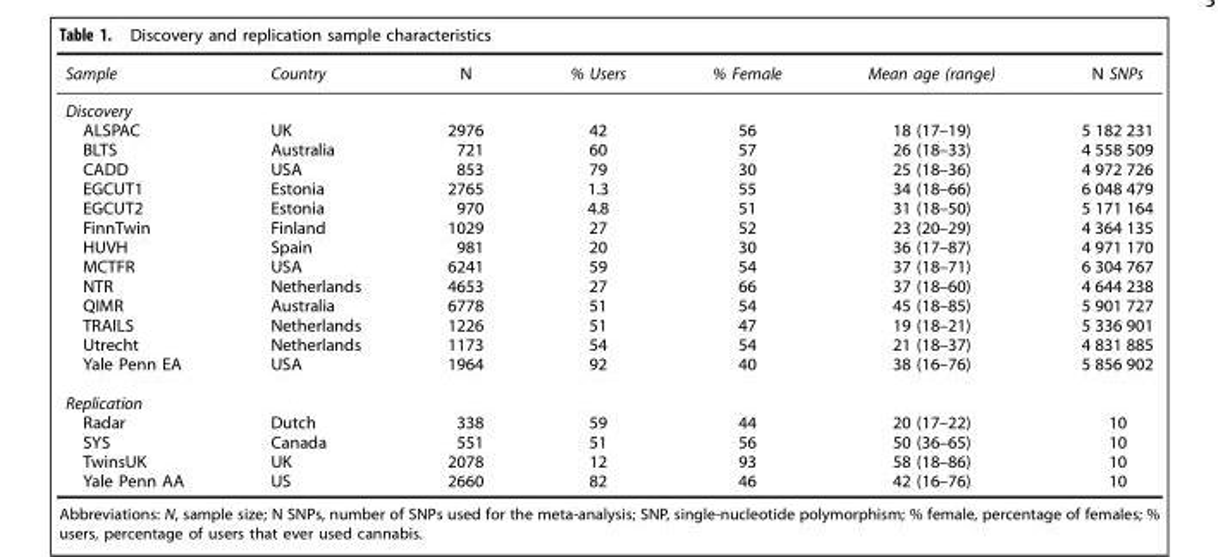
<table><thead><tr><td>Sample</td><td>Country</td><td>N</td><td>% Users</td><td>% Female</td><td>Mean age (range)</td><td>N SNPs</td></tr></thead><tbody><tr><td colspan="7">Discovery</td></tr><tr><td>ALSPAC</td><td>UK</td><td>2976</td><td>42</td><td>56</td><td>18 (17–19)</td><td>5 182 231</td></tr><tr><td>BLTS</td><td>Australia</td><td>721</td><td>60</td><td>57</td><td>26 (18–33)</td><td>4 558 509</td></tr><tr><td>CADD</td><td>USA</td><td>853</td><td>79</td><td>30</td><td>25 (18–36)</td><td>4 972 726</td></tr><tr><td>EGCUT1</td><td>Estonia</td><td>2765</td><td>1.3</td><td>55</td><td>34 (18–66)</td><td>6 048 479</td></tr><tr><td>EGCUT2</td><td>Estonia</td><td>970</td><td>4.8</td><td>51</td><td>31 (18–50)</td><td>5 171 164</td></tr><tr><td>FinnTwin</td><td>Finland</td><td>1029</td><td>27</td><td>52</td><td>23 (20–29)</td><td>4 364 135</td></tr><tr><td>HUVH</td><td>Spain</td><td>981</td><td>20</td><td>30</td><td>36 (17–87)</td><td>4 971 170</td></tr><tr><td>MCTFR</td><td>USA</td><td>6241</td><td>59</td><td>54</td><td>37 (18–71)</td><td>6 304 767</td></tr><tr><td>NTR</td><td>Netherlands</td><td>4653</td><td>27</td><td>66</td><td>37 (18–60)</td><td>4 644 238</td></tr><tr><td>QIMR</td><td>Australia</td><td>6778</td><td>51</td><td>54</td><td>45 (18–85)</td><td>5 901 727</td></tr><tr><td>TRAILS</td><td>Netherlands</td><td>1226</td><td>51</td><td>47</td><td>19 (18–21)</td><td>5 336 901</td></tr><tr><td>Utrecht</td><td>Netherlands</td><td>1173</td><td>54</td><td>54</td><td>21 (18–37)</td><td>4 831 885</td></tr><tr><td>Yale Penn EA</td><td>USA</td><td>1964</td><td>92</td><td>40</td><td>38 (16–76)</td><td>5 856 902</td></tr><tr><td colspan="7">Replication</td></tr><tr><td>Radar</td><td>Dutch</td><td>338</td><td>59</td><td>44</td><td>20 (17–22)</td><td>10</td></tr><tr><td>SYS</td><td>Canada</td><td>551</td><td>51</td><td>56</td><td>50 (36–65)</td><td>10</td></tr><tr><td>TwinsUK</td><td>UK</td><td>2078</td><td>12</td><td>93</td><td>58 (18–86)</td><td>10</td></tr><tr><td>Yale Penn AA</td><td>US</td><td>2660</td><td>82</td><td>46</td><td>42 (16–76)</td><td>10</td></tr></tbody></table>